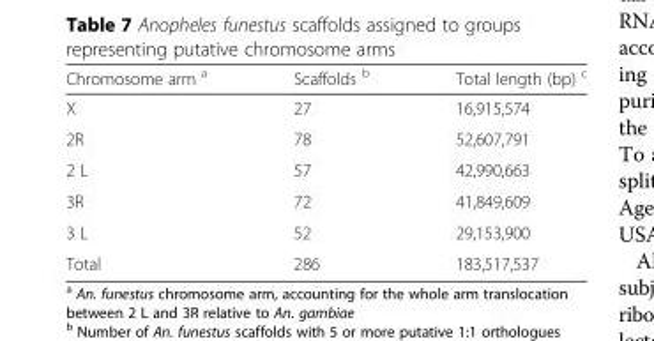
<table><thead><tr><td>Chromosome arm <sup>a</sup></td><td>Scaffolds <sup>b</sup></td><td>Total length (bp) <sup>c</sup></td></tr></thead><tbody><tr><td>X</td><td>27</td><td>16,915,574</td></tr><tr><td>2R</td><td>78</td><td>52,607,791</td></tr><tr><td>2 L</td><td>57</td><td>42,990,663</td></tr><tr><td>3R</td><td>72</td><td>41,849,609</td></tr><tr><td>3 L</td><td>52</td><td>29,153,900</td></tr><tr><td>Total</td><td>286</td><td>183,517,537</td></tr></tbody></table>